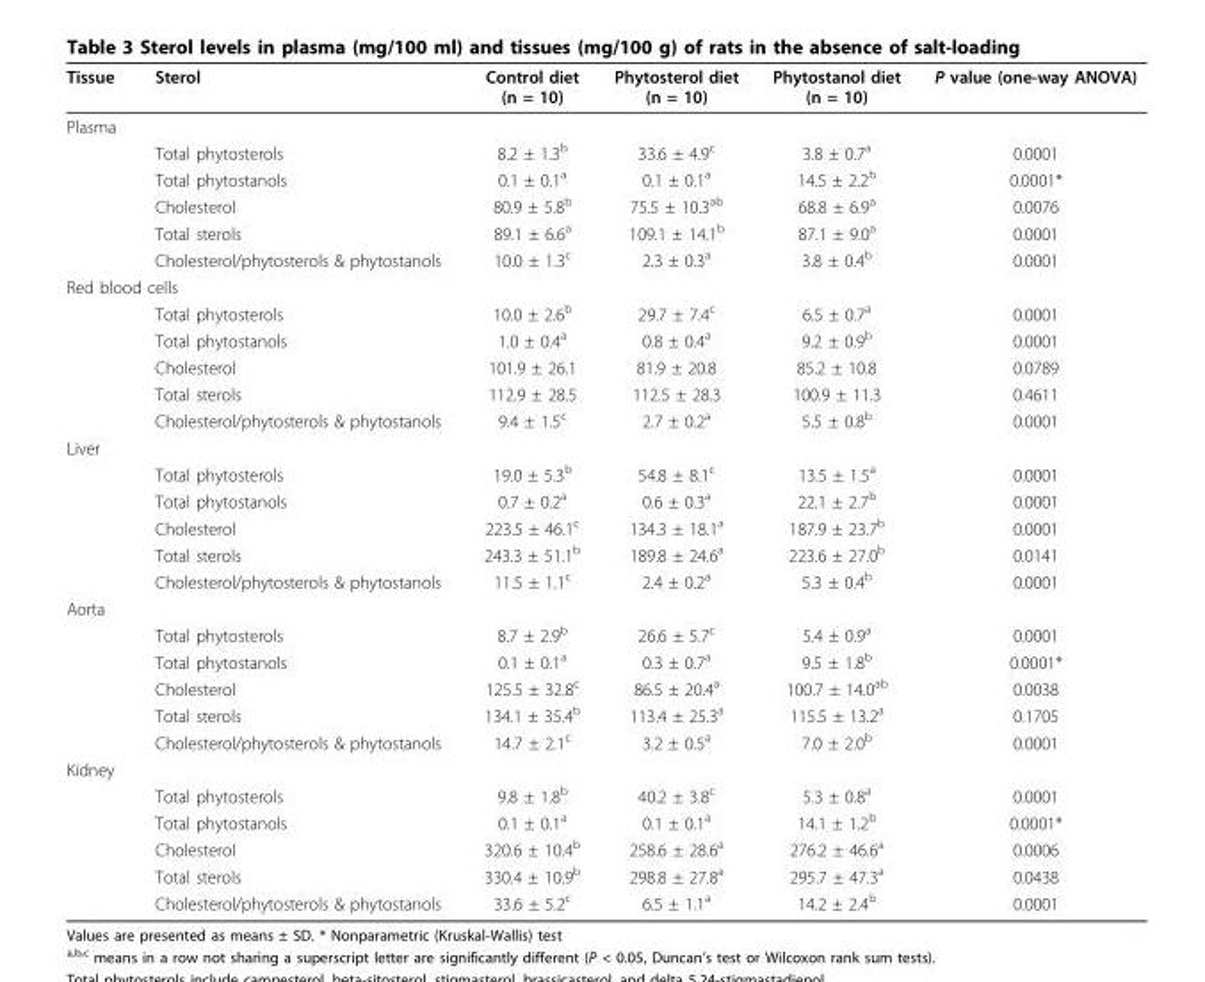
<table><thead><tr><td>Tissue</td><td>Sterol</td><td>Control diet (n = 10)</td><td>Phytosterol diet (n = 10)</td><td>Phytostanol diet (n = 10)</td><td>P value (one-way ANOVA)</td></tr></thead><tbody><tr><td colspan="6">Plasma</td></tr><tr><td></td><td>Total phytosterols</td><td>8.2 ± 1.3<sup>b</sup></td><td>33.6 ± 4.9<sup>c</sup></td><td>3.8 ± 0.7<sup>a</sup></td><td>0.0001</td></tr><tr><td></td><td>Total phytostanols</td><td>0.1 ± 0.1<sup>a</sup></td><td>0.1 ± 0.1<sup>a</sup></td><td>14.5 ± 2.2<sup>b</sup></td><td>0.0001*</td></tr><tr><td></td><td>Cholesterol</td><td>80.9 ± 5.8<sup>b</sup></td><td>75.5 ± 10.3<sup>ab</sup></td><td>68.8 ± 6.9<sup>a</sup></td><td>0.0076</td></tr><tr><td></td><td>Total sterols</td><td>89.1 ± 6.6<sup>a</sup></td><td>109.1 ± 14.1<sup>b</sup></td><td>87.1 ± 9.0<sup>a</sup></td><td>0.0001</td></tr><tr><td></td><td>Cholesterol/phytosterols &amp; phytostanols</td><td>10.0 ± 1.3<sup>c</sup></td><td>2.3 ± 0.3<sup>a</sup></td><td>3.8 ± 0.4<sup>b</sup></td><td>0.0001</td></tr><tr><td colspan="6">Red blood cells</td></tr><tr><td></td><td>Total phytosterols</td><td>10.0 ± 2.6<sup>b</sup></td><td>29.7 ± 7.4<sup>c</sup></td><td>6.5 ± 0.7<sup>a</sup></td><td>0.0001</td></tr><tr><td></td><td>Total phytostanols</td><td>1.0 ± 0.4<sup>a</sup></td><td>0.8 ± 0.4<sup>a</sup></td><td>9.2 ± 0.9<sup>b</sup></td><td>0.0001</td></tr><tr><td></td><td>Cholesterol</td><td>101.9 ± 26.1</td><td>81.9 ± 20.8</td><td>85.2 ± 10.8</td><td>0.0789</td></tr><tr><td></td><td>Total sterols</td><td>112.9 ± 28.5</td><td>112.5 ± 28.3</td><td>100.9 ± 11.3</td><td>0.4611</td></tr><tr><td></td><td>Cholesterol/phytosterols &amp; phytostanols</td><td>9.4 ± 1.5<sup>c</sup></td><td>2.7 ± 0.2<sup>a</sup></td><td>5.5 ± 0.8<sup>b</sup></td><td>0.0001</td></tr><tr><td colspan="6">Liver</td></tr><tr><td></td><td>Total phytosterols</td><td>19.0 ± 5.3<sup>b</sup></td><td>54.8 ± 8.1<sup>c</sup></td><td>13.5 ± 1.5<sup>a</sup></td><td>0.0001</td></tr><tr><td></td><td>Total phytostanols</td><td>0.7 ± 0.2<sup>a</sup></td><td>0.6 ± 0.3<sup>a</sup></td><td>22.1 ± 2.7<sup>b</sup></td><td>0.0001</td></tr><tr><td></td><td>Cholesterol</td><td>223.5 ± 46.1<sup>c</sup></td><td>134.3 ± 18.1<sup>a</sup></td><td>187.9 ± 23.7<sup>b</sup></td><td>0.0001</td></tr><tr><td></td><td>Total sterols</td><td>243.3 ± 51.1<sup>b</sup></td><td>189.8 ± 24.6<sup>a</sup></td><td>223.6 ± 27.0<sup>b</sup></td><td>0.0141</td></tr><tr><td></td><td>Cholesterol/phytosterols &amp; phytostanols</td><td>11.5 ± 1.1<sup>c</sup></td><td>2.4 ± 0.2<sup>a</sup></td><td>5.3 ± 0.4<sup>b</sup></td><td>0.0001</td></tr><tr><td colspan="6">Aorta</td></tr><tr><td></td><td>Total phytosterols</td><td>8.7 ± 2.9<sup>b</sup></td><td>26.6 ± 5.7<sup>c</sup></td><td>5.4 ± 0.9<sup>a</sup></td><td>0.0001</td></tr><tr><td></td><td>Total phytostanols</td><td>0.1 ± 0.1<sup>a</sup></td><td>0.3 ± 0.7<sup>a</sup></td><td>9.5 ± 1.8<sup>b</sup></td><td>0.0001*</td></tr><tr><td></td><td>Cholesterol</td><td>125.5 ± 32.8<sup>c</sup></td><td>86.5 ± 20.4<sup>a</sup></td><td>100.7 ± 14.0<sup>ab</sup></td><td>0.0038</td></tr><tr><td></td><td>Total sterols</td><td>134.1 ± 35.4<sup>b</sup></td><td>113.4 ± 25.3<sup>a</sup></td><td>115.5 ± 13.2<sup>a</sup></td><td>0.1705</td></tr><tr><td></td><td>Cholesterol/phytosterols &amp; phytostanols</td><td>14.7 ± 2.1<sup>c</sup></td><td>3.2 ± 0.5<sup>a</sup></td><td>7.0 ± 2.0<sup>b</sup></td><td>0.0001</td></tr><tr><td colspan="6">Kidney</td></tr><tr><td></td><td>Total phytosterols</td><td>9.8 ± 1.8<sup>b</sup></td><td>40.2 ± 3.8<sup>c</sup></td><td>5.3 ± 0.8<sup>a</sup></td><td>0.0001</td></tr><tr><td></td><td>Total phytostanols</td><td>0.1 ± 0.1<sup>a</sup></td><td>0.1 ± 0.1<sup>a</sup></td><td>14.1 ± 1.2<sup>b</sup></td><td>0.0001*</td></tr><tr><td></td><td>Cholesterol</td><td>320.6 ± 10.4<sup>b</sup></td><td>258.6 ± 28.6<sup>a</sup></td><td>276.2 ± 46.6<sup>a</sup></td><td>0.0006</td></tr><tr><td></td><td>Total sterols</td><td>330.4 ± 10.9<sup>b</sup></td><td>298.8 ± 27.8<sup>a</sup></td><td>295.7 ± 47.3<sup>a</sup></td><td>0.0438</td></tr><tr><td></td><td>Cholesterol/phytosterols &amp; phytostanols</td><td>33.6 ± 5.2<sup>c</sup></td><td>6.5 ± 1.1<sup>a</sup></td><td>14.2 ± 2.4<sup>b</sup></td><td>0.0001</td></tr></tbody></table>